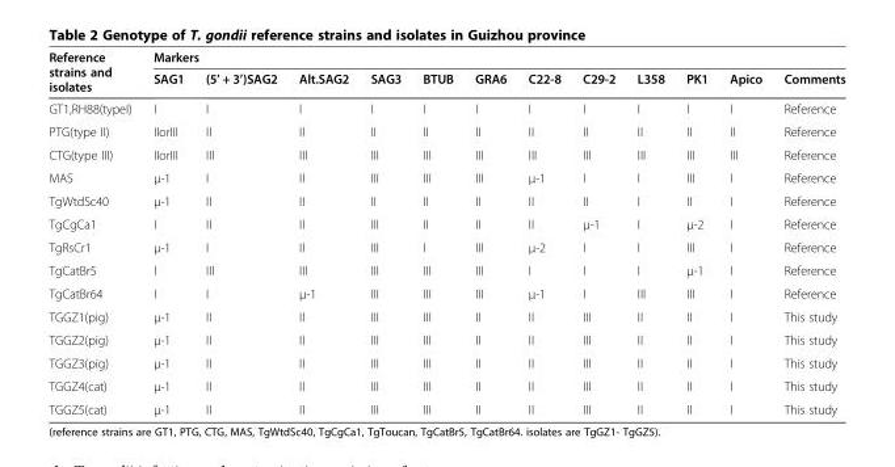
<table><thead><tr><td rowspan="2">Reference strains and isolates</td><td colspan="12">Markers</td></tr><tr><td>SAG1</td><td>(5’ + 3’)SAG2</td><td>Alt.SAG2</td><td>SAG3</td><td>BTUB</td><td>GRA6</td><td>C22-8</td><td>C29-2</td><td>L358</td><td>PK1</td><td>Apico</td><td>Comments</td></tr></thead><tbody><tr><td>GT1,RH88(typeI)</td><td>I</td><td>I</td><td>I</td><td>I</td><td>I</td><td>I</td><td>I</td><td>I</td><td>I</td><td>I</td><td>I</td><td>Reference</td></tr><tr><td>PTG(type II)</td><td>IIorIII</td><td>II</td><td>II</td><td>II</td><td>II</td><td>II</td><td>II</td><td>II</td><td>II</td><td>II</td><td>II</td><td>Reference</td></tr><tr><td>CTG(type III)</td><td>IIorIII</td><td>III</td><td>III</td><td>III</td><td>III</td><td>III</td><td>III</td><td>III</td><td>III</td><td>III</td><td>III</td><td>Reference</td></tr><tr><td>MAS</td><td>μ-1</td><td>I</td><td>II</td><td>III</td><td>III</td><td>III</td><td>μ-1</td><td>I</td><td>I</td><td>III</td><td>I</td><td>Reference</td></tr><tr><td>TgWtdSc40</td><td>μ-1</td><td>II</td><td>II</td><td>II</td><td>II</td><td>II</td><td>II</td><td>II</td><td>I</td><td>II</td><td>I</td><td>Reference</td></tr><tr><td>TgCgCa1</td><td>I</td><td>II</td><td>II</td><td>III</td><td>II</td><td>II</td><td>II</td><td>μ-1</td><td>I</td><td>μ-2</td><td>I</td><td>Reference</td></tr><tr><td>TgRsCr1</td><td>μ-1</td><td>I</td><td>II</td><td>III</td><td>I</td><td>III</td><td>μ-2</td><td>I</td><td>I</td><td>III</td><td>I</td><td>Reference</td></tr><tr><td>TgCatBr5</td><td>I</td><td>III</td><td>III</td><td>III</td><td>III</td><td>III</td><td>I</td><td>I</td><td>I</td><td>μ-1</td><td>I</td><td>Reference</td></tr><tr><td>TgCatBr64</td><td>I</td><td>I</td><td>μ-1</td><td>III</td><td>III</td><td>III</td><td>μ-1</td><td>I</td><td>III</td><td>III</td><td>I</td><td>Reference</td></tr><tr><td>TGGZ1(pig)</td><td>μ-1</td><td>II</td><td>II</td><td>III</td><td>III</td><td>II</td><td>II</td><td>III</td><td>II</td><td>II</td><td>I</td><td>This study</td></tr><tr><td>TGGZ2(pig)</td><td>μ-1</td><td>II</td><td>II</td><td>III</td><td>III</td><td>II</td><td>II</td><td>III</td><td>II</td><td>II</td><td>I</td><td>This study</td></tr><tr><td>TGGZ3(pig)</td><td>μ-1</td><td>II</td><td>II</td><td>III</td><td>III</td><td>II</td><td>II</td><td>III</td><td>II</td><td>II</td><td>I</td><td>This study</td></tr><tr><td>TGGZ4(cat)</td><td>μ-1</td><td>II</td><td>II</td><td>III</td><td>III</td><td>II</td><td>II</td><td>III</td><td>II</td><td>II</td><td>I</td><td>This study</td></tr><tr><td>TGGZ5(cat)</td><td>μ-1</td><td>II</td><td>II</td><td>III</td><td>III</td><td>II</td><td>II</td><td>III</td><td>II</td><td>II</td><td>I</td><td>This study</td></tr></tbody></table>